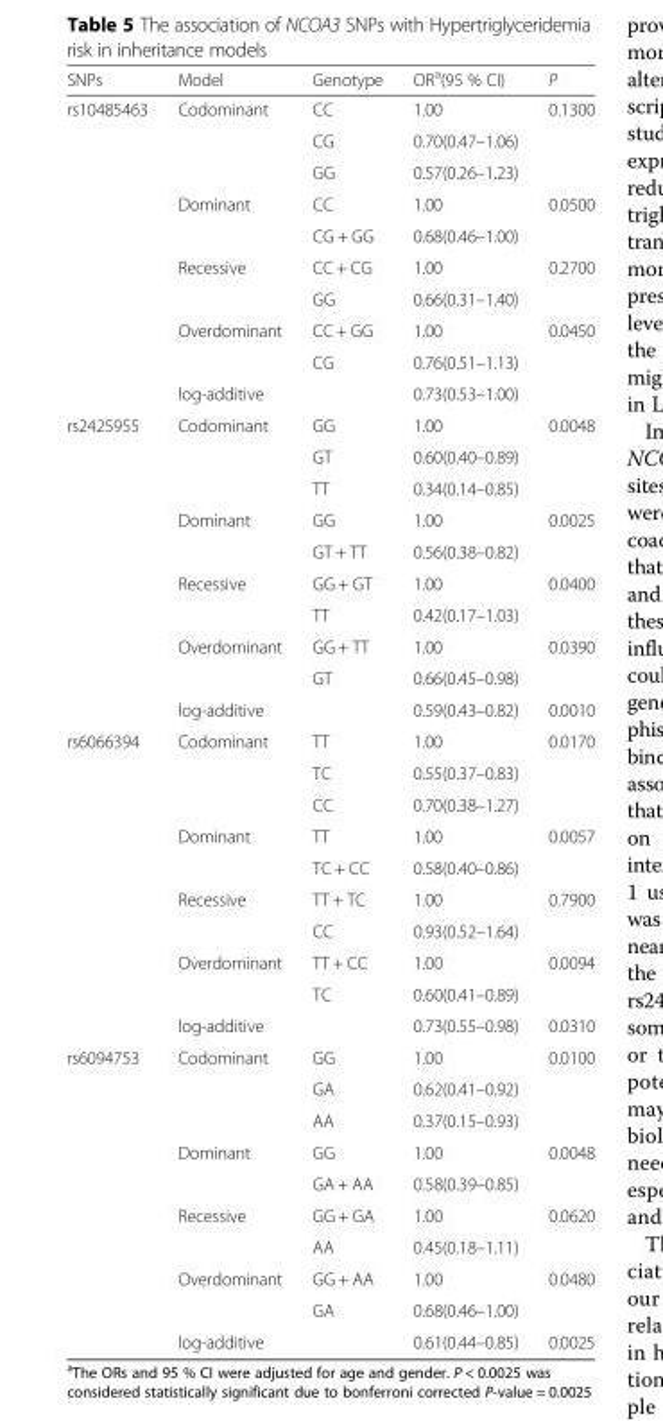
<table><thead><tr><td>SNPs</td><td>Model</td><td>Genotype</td><td>OR<sup>a</sup>(95 % CI)</td><td>P</td></tr></thead><tbody><tr><td rowspan="10">rs10485463</td><td>Codominant</td><td>CC</td><td>1.00</td><td>0.1300</td></tr><tr><td></td><td>CG</td><td>0.70(0.47–1.06)</td><td></td></tr><tr><td></td><td>GG</td><td>0.57(0.26–1.23)</td><td></td></tr><tr><td>Dominant</td><td>CC</td><td>1.00</td><td>0.0500</td></tr><tr><td></td><td>CG + GG</td><td>0.68(0.46–1.00)</td><td></td></tr><tr><td>Recessive</td><td>CC + CG</td><td>1.00</td><td>0.2700</td></tr><tr><td></td><td>GG</td><td>0.66(0.31–1.40)</td><td></td></tr><tr><td>Overdominant</td><td>CC + GG</td><td>1.00</td><td>0.0450</td></tr><tr><td></td><td>CG</td><td>0.76(0.51–1.13)</td><td></td></tr><tr><td>log-additive</td><td></td><td>0.73(0.53–1.00)</td><td></td></tr><tr><td rowspan="10">rs2425955</td><td>Codominant</td><td>GG</td><td>1.00</td><td>0.0048</td></tr><tr><td></td><td>GT</td><td>0.60(0.40–0.89)</td><td></td></tr><tr><td></td><td>TT</td><td>0.34(0.14–0.85)</td><td></td></tr><tr><td>Dominant</td><td>GG</td><td>1.00</td><td>0.0025</td></tr><tr><td></td><td>GT + TT</td><td>0.56(0.38–0.82)</td><td></td></tr><tr><td>Recessive</td><td>GG + GT</td><td>1.00</td><td>0.0400</td></tr><tr><td></td><td>TT</td><td>0.42(0.17–1.03)</td><td></td></tr><tr><td>Overdominant</td><td>GG + TT</td><td>1.00</td><td>0.0390</td></tr><tr><td></td><td>GT</td><td>0.66(0.45–0.98)</td><td></td></tr><tr><td>log-additive</td><td></td><td>0.59(0.43–0.82)</td><td>0.0010</td></tr><tr><td rowspan="10">rs6066394</td><td>Codominant</td><td>TT</td><td>1.00</td><td>0.0170</td></tr><tr><td></td><td>TC</td><td>0.55(0.37–0.83)</td><td></td></tr><tr><td></td><td>CC</td><td>0.70(0.38–1.27)</td><td></td></tr><tr><td>Dominant</td><td>TT</td><td>1.00</td><td>0.0057</td></tr><tr><td></td><td>TC + CC</td><td>0.58(0.40–0.86)</td><td></td></tr><tr><td>Recessive</td><td>TT + TC</td><td>1.00</td><td>0.7900</td></tr><tr><td></td><td>CC</td><td>0.93(0.52–1.64)</td><td></td></tr><tr><td>Overdominant</td><td>TT + CC</td><td>1.00</td><td>0.0094</td></tr><tr><td></td><td>TC</td><td>0.60(0.41–0.89)</td><td></td></tr><tr><td>log-additive</td><td></td><td>0.73(0.55–0.98)</td><td>0.0310</td></tr><tr><td rowspan="10">rs6094753</td><td>Codominant</td><td>GG</td><td>1.00</td><td>0.0100</td></tr><tr><td></td><td>GA</td><td>0.62(0.41–0.92)</td><td></td></tr><tr><td></td><td>AA</td><td>0.37(0.15–0.93)</td><td></td></tr><tr><td>Dominant</td><td>GG</td><td>1.00</td><td>0.0048</td></tr><tr><td></td><td>GA + AA</td><td>0.58(0.39–0.85)</td><td></td></tr><tr><td>Recessive</td><td>GG + GA</td><td>1.00</td><td>0.0620</td></tr><tr><td></td><td>AA</td><td>0.45(0.18–1.11)</td><td></td></tr><tr><td>Overdominant</td><td>GG + AA</td><td>1.00</td><td>0.0480</td></tr><tr><td></td><td>GA</td><td>0.68(0.46–1.00)</td><td></td></tr><tr><td>log-additive</td><td></td><td>0.61(0.44–0.85)</td><td>0.0025</td></tr></tbody></table>